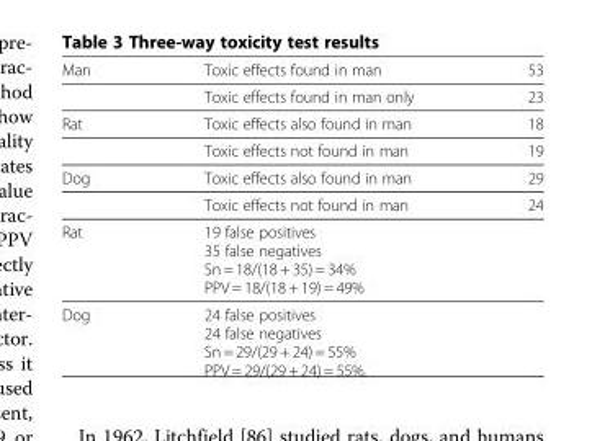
<table><thead><tr><td>Man</td><td>Toxic effects found in man</td><td>53</td></tr></thead><tbody><tr><td></td><td>Toxic effects found in man only</td><td>23</td></tr><tr><td rowspan="2">Rat</td><td>Toxic effects also found in man</td><td>18</td></tr><tr><td>Toxic effects not found in man</td><td>19</td></tr><tr><td rowspan="2">Dog</td><td>Toxic effects also found in man</td><td>29</td></tr><tr><td>Toxic effects not found in man</td><td>24</td></tr><tr><td>Rat</td><td colspan="2">19 false positives 35 false negatives Sn = 18/(18 + 35) = 34% PPV = 18/(18 + 19) = 49%</td></tr><tr><td>Dog</td><td colspan="2">24 false positives 24 false negatives Sn = 29/(29 + 24) = 55% PPV = 29/(29 + 24) = 55%.</td></tr></tbody></table>